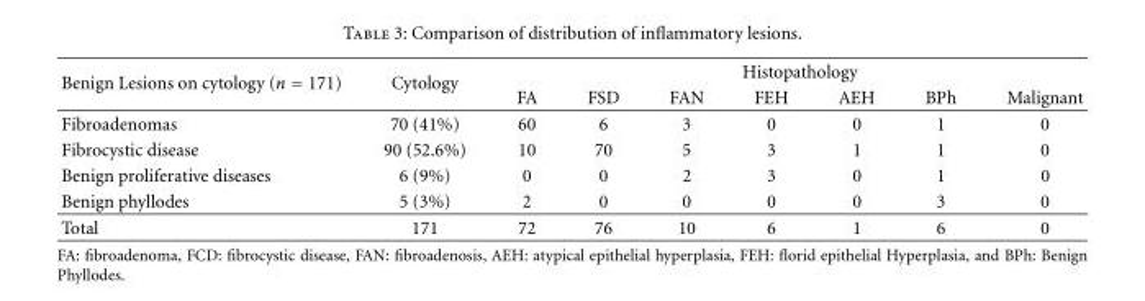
<table><thead><tr><td rowspan="2">Benign Lesions on cytology (n = 171)</td><td rowspan="2">Cytology</td><td colspan="7">Histopathology</td></tr><tr><td>FA</td><td>FSD</td><td>FAN</td><td>FEH</td><td>AEH</td><td>BPh</td><td>Malignant</td></tr></thead><tbody><tr><td>Fibroadenomas</td><td>70 (41%)</td><td>60</td><td>6</td><td>3</td><td>0</td><td>0</td><td>1</td><td>0</td></tr><tr><td>Fibrocystic disease</td><td>90 (52.6%)</td><td>10</td><td>70</td><td>5</td><td>3</td><td>1</td><td>1</td><td>0</td></tr><tr><td>Benign proliferative diseases</td><td>6 (9%)</td><td>0</td><td>0</td><td>2</td><td>3</td><td>0</td><td>1</td><td>0</td></tr><tr><td>Benign phyllodes</td><td>5 (3%)</td><td>2</td><td>0</td><td>0</td><td>0</td><td>0</td><td>3</td><td>0</td></tr><tr><td>Total</td><td>171</td><td>72</td><td>76</td><td>10</td><td>6</td><td>1</td><td>6</td><td>0</td></tr></tbody></table>